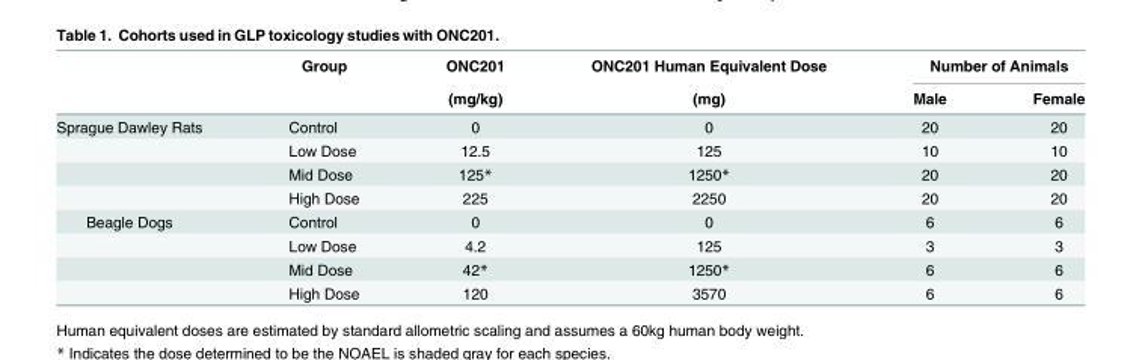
<table><thead><tr><td rowspan="2"></td><td rowspan="2">Group</td><td rowspan="2">ONC201 (mg/kg)</td><td rowspan="2">ONC201 Human Equivalent Dose (mg)</td><td colspan="2">Number of Animals</td></tr><tr><td>Male</td><td>Female</td></tr></thead><tbody><tr><td rowspan="4">Sprague Dawley Rats</td><td>Control</td><td>0</td><td>0</td><td>20</td><td>20</td></tr><tr><td>Low Dose</td><td>12.5</td><td>125</td><td>10</td><td>10</td></tr><tr><td>Mid Dose</td><td>125*</td><td>1250*</td><td>20</td><td>20</td></tr><tr><td>High Dose</td><td>225</td><td>2250</td><td>20</td><td>20</td></tr><tr><td rowspan="4">Beagle Dogs</td><td>Control</td><td>0</td><td>0</td><td>6</td><td>6</td></tr><tr><td>Low Dose</td><td>4.2</td><td>125</td><td>3</td><td>3</td></tr><tr><td>Mid Dose</td><td>42*</td><td>1250*</td><td>6</td><td>6</td></tr><tr><td>High Dose</td><td>120</td><td>3570</td><td>6</td><td>6</td></tr></tbody></table>